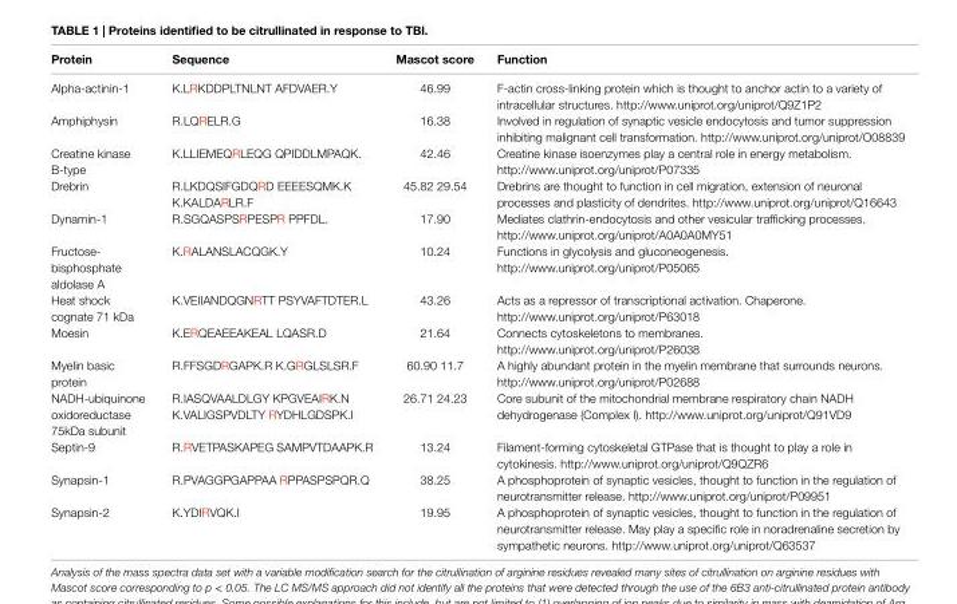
<table><thead><tr><td>Protein</td><td>sequence</td><td>Mascot score</td><td>Function</td></tr></thead><tbody><tr><td>Alpha-actinin-1</td><td>K.LRKDDPLTNLNT AFDVAER.Y</td><td>46.99</td><td>F-actin cross-linking protein which is thought to anchor actin to a variety of intracellular structures. http://www.uniprot.org/uniprot/Q9Z1P2</td></tr><tr><td>Amphiphysin</td><td>R.LQRELR.G</td><td>16.38</td><td>Involved in regulation of synaptic vesicle endocytosis and tumor suppression inhibiting malignant cell transformation. http://www.uniprot.org/uniprot/O08839</td></tr><tr><td>Creatine kinase B-type</td><td>K.LLIEMEQRLEQG QPIDDLMPAQK.</td><td>42.46</td><td>Creatine kinase isoenzymes play a central role in energy metabolism. http://www.uniprot.org/uniprot/P07335</td></tr><tr><td>Drebrin</td><td>R.LKDQSIFGDQRD EEEESQMK.K K.KALDARLR.F</td><td>45.82 29.54</td><td>Drebrins are thought to function in cell migration, extension of neuronal processes and plasticity of dendrites. http://www.uniprot.org/uniprot/Q16643</td></tr><tr><td>Dynamin-1</td><td>R.SGQASPSRPESPR PPFDL.</td><td>17.90</td><td>Mediates clathrin-endocytosis and other vesicular trafficking processes. http://www.uniprot.org/uniprot/A0A0A0MY51</td></tr><tr><td>Fructose- bisphosphate aldolase A</td><td>K.RALANSLACQGK.Y</td><td>10.24</td><td>Functions in glycolysis and gluconeogenesis. http://www.uniprot.org/uniprot/P05065</td></tr><tr><td>Heat shock cognate 71 kDa</td><td>K.VEIIANDQGNRTT PSYVAFTDTER.L</td><td>43.26</td><td>Acts as a repressor of transcriptional activation. Chaperone. http://www.uniprot.org/uniprot/P63018</td></tr><tr><td>Moesin</td><td>K.ERQEAEEAKEAL LQASR.D</td><td>21.64</td><td>Connects cytoskeletons to membranes. http://www.uniprot.org/uniprot/P26038</td></tr><tr><td>Myelin basic protein</td><td>R.FFSGDRGAPK.R K.GRGLSLSR.F</td><td>60.90 11.7</td><td>A highly abundant protein in the myelin membrane that surrounds neurons. http://www.uniprot.org/uniprot/P02688</td></tr><tr><td>NADH-ubiquinone oxidoreductase 75kDa subunit</td><td>R.IASQVAALDLGY KPGVEAIRK.N K.VALIGSPVDLTY RYDHLGDSPK.I</td><td>26.71 24.23</td><td>Core subunit of the mitochondrial membrane respiratory chain NADH dehydrogenase (Complex I). http://www.uniprot.org/uniprot/Q91VD9</td></tr><tr><td>Septin-9</td><td>R.RVETPASKAPEG SAMPVTDAAPK.R</td><td>13.24</td><td>Filament-forming cytoskeletal GTPase that is thought to play a role in cytokinesis. http://www.uniprot.org/uniprot/Q9QZR6</td></tr><tr><td>Synapsin-1</td><td>R.PVAGGPGAPPAA RPPASPSPQR.Q</td><td>38.25</td><td>A phosphoprotein of synaptic vesicles, thought to function in the regulation of neurotransmitter release. http://www.uniprot.org/uniprot/P09951</td></tr><tr><td>Synapsin-2</td><td>K.YDIRVQK.I</td><td>19.95</td><td>A phosphoprotein of synaptic vesicles, thought to function in the regulation of neurotransmitter release. May play a specific role in noradrenaline secretion by sympathetic neurons. http://www.uniprot.org/uniprot/Q63537</td></tr></tbody></table>